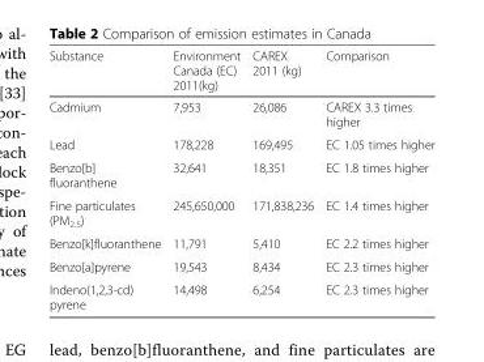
<table><thead><tr><td>Substance</td><td>Environment Canada (EC) 2011(kg)</td><td>CAREX 2011 (kg)</td><td>Comparison</td></tr></thead><tbody><tr><td>Cadmium</td><td>7,953</td><td>26,086</td><td>CAREX 3.3 times higher</td></tr><tr><td>Lead</td><td>178,228</td><td>169,495</td><td>EC 1.05 times higher</td></tr><tr><td>Benzo[b] fluoranthene</td><td>32,641</td><td>18,351</td><td>EC 1.8 times higher</td></tr><tr><td>Fine particulates (PM<sub>2.5</sub>)</td><td>245,650,000</td><td>171,838,236</td><td>EC 1.4 times higher</td></tr><tr><td>Benzo[k]fluoranthene</td><td>11,791</td><td>5,410</td><td>EC 2.2 times higher</td></tr><tr><td>Benzo[a]pyrene</td><td>19,543</td><td>8,434</td><td>EC 2.3 times higher</td></tr><tr><td>Indeno(1,2,3-cd) pyrene</td><td>14,498</td><td>6,254</td><td>EC 2.3 times higher</td></tr></tbody></table>